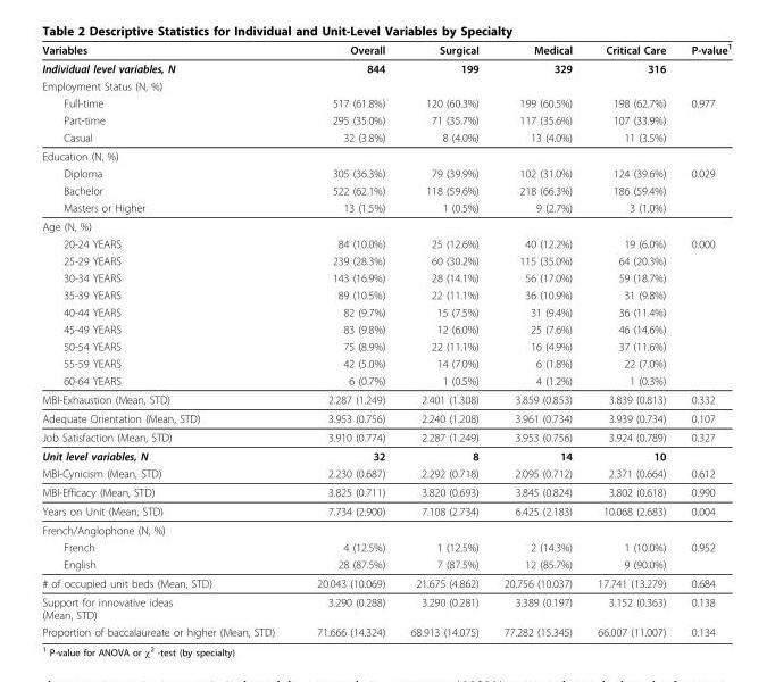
<table><thead><tr><td>Variables</td><td>Overall</td><td>Surgical</td><td>Medical</td><td>Critical Care</td><td>P-value<sup>1</sup></td></tr></thead><tbody><tr><td>Individual level variables, N</td><td>844</td><td>199</td><td>329</td><td>316</td><td></td></tr><tr><td colspan="6">Employment Status (N, %)</td></tr><tr><td>Full-time</td><td>517 (61.8%)</td><td>120 (60.3%)</td><td>199 (60.5%)</td><td>198 (62.7%)</td><td>0.977</td></tr><tr><td>Part-time</td><td>295 (35.0%)</td><td>71 (35.7%)</td><td>117 (35.6%)</td><td>107 (33.9%)</td><td></td></tr><tr><td>Casual</td><td>32 (3.8%)</td><td>8 (4.0%)</td><td>13 (4.0%)</td><td>11 (3.5%)</td><td></td></tr><tr><td colspan="6">Education (N, %)</td></tr><tr><td>Diploma</td><td>305 (36.3%)</td><td>79 (39.9%)</td><td>102 (31.0%)</td><td>124 (39.6%)</td><td>0.029</td></tr><tr><td>Bachelor</td><td>522 (62.1%)</td><td>118 (59.6%)</td><td>218 (66.3%)</td><td>186 (59.4%)</td><td></td></tr><tr><td>Masters or Higher</td><td>13 (1.5%)</td><td>1 (0.5%)</td><td>9 (2.7%)</td><td>3 (1.0%)</td><td></td></tr><tr><td colspan="6">Age (N, %)</td></tr><tr><td>20-24 YEARS</td><td>84 (10.0%)</td><td>25 (12.6%)</td><td>40 (12.2%)</td><td>19 (6.0%)</td><td>0.000</td></tr><tr><td>25-29 YEARS</td><td>239 (28.3%)</td><td>60 (30.2%)</td><td>115 (35.0%)</td><td>64 (20.3%)</td><td></td></tr><tr><td>30-34 YEARS</td><td>143 (16.9%)</td><td>28 (14.1%)</td><td>56 (17.0%)</td><td>59 (18.7%)</td><td></td></tr><tr><td>35-39 YEARS</td><td>89 (10.5%)</td><td>22 (11.1%)</td><td>36 (10.9%)</td><td>31 (9.8%)</td><td></td></tr><tr><td>40-44 YEARS</td><td>82 (9.7%)</td><td>15 (7.5%)</td><td>31 (9.4%)</td><td>36 (11.4%)</td><td></td></tr><tr><td>45-49 YEARS</td><td>83 (9.8%)</td><td>12 (6.0%)</td><td>25 (7.6%)</td><td>46 (14.6%)</td><td></td></tr><tr><td>50-54 YEARS</td><td>75 (8.9%)</td><td>22 (11.1%)</td><td>16 (4.9%)</td><td>37 (11.6%)</td><td></td></tr><tr><td>55-59 YEARS</td><td>42 (5.0%)</td><td>14 (7.0%)</td><td>6 (1.8%)</td><td>22 (7.0%)</td><td></td></tr><tr><td>60-64 YEARS</td><td>6 (0.7%)</td><td>1 (0.5%)</td><td>4 (1.2%)</td><td>1 (0.3%)</td><td></td></tr><tr><td>MBI-Exhaustion (Mean, STD)</td><td>2.287 (1.249)</td><td>2.401 (1.308)</td><td>3.859 (0.853)</td><td>3.839 (0.813)</td><td>0.332</td></tr><tr><td>Adequate Orientation (Mean, STD)</td><td>3.953 (0.756)</td><td>2.240 (1.208)</td><td>3.961 (0.734)</td><td>3.939 (0.734)</td><td>0.107</td></tr><tr><td>Job Satisfaction (Mean, STD)</td><td>3.910 (0.774)</td><td>2.287 (1.249)</td><td>3.953 (0.756)</td><td>3.924 (0.789)</td><td>0.327</td></tr><tr><td>Unit level variables, N</td><td>32</td><td>8</td><td>14</td><td>10</td><td></td></tr><tr><td>MBI-Cynicism (Mean, STD)</td><td>2.230 (0.687)</td><td>2.292 (0.718)</td><td>2.095 (0.712)</td><td>2.371 (0.664)</td><td>0.612</td></tr><tr><td>MBI-Efficacy (Mean, STD)</td><td>3.825 (0.711)</td><td>3.820 (0.693)</td><td>3.845 (0.824)</td><td>3.802 (0.618)</td><td>0.990</td></tr><tr><td>Years on Unit (Mean, STD)</td><td>7.734 (2.900)</td><td>7.108 (2.734)</td><td>6.425 (2.183)</td><td>10.068 (2.683)</td><td>0.004</td></tr><tr><td colspan="6">French/Anglophone (N, %)</td></tr><tr><td>French</td><td>4 (12.5%)</td><td>1 (12.5%)</td><td>2 (14.3%)</td><td>1 (10.0%)</td><td>0.952</td></tr><tr><td>English</td><td>28 (87.5%)</td><td>7 (87.5%)</td><td>12 (85.7%)</td><td>9 (90.0%)</td><td></td></tr><tr><td># of occupied unit beds (Mean, STD)</td><td>20.043 (10.069)</td><td>21.675 (4.862)</td><td>20.756 (10.037)</td><td>17.741 (13.279)</td><td>0.684</td></tr><tr><td>Support for innovative ideas (Mean, STD)</td><td>3.290 (0.288)</td><td>3.290 (0.281)</td><td>3.389 (0.197)</td><td>3.152 (0.363)</td><td>0.138</td></tr><tr><td>Proportion of baccalaureate or higher (Mean, STD)</td><td>71.666 (14.324)</td><td>68.913 (14.075)</td><td>77.282 (15.345)</td><td>66.007 (11.007)</td><td>0.134</td></tr></tbody></table>